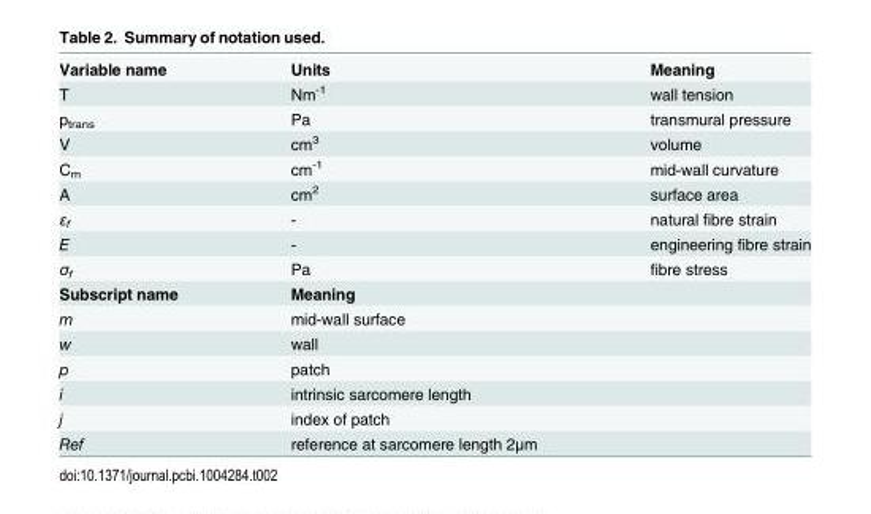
<table><tbody><tr><td>Variable name</td><td>Units</td><td>Meaning</td></tr><tr><td>T</td><td>Nm<sup>-1</sup></td><td>wall tension</td></tr><tr><td>p<sub>trans</sub></td><td>Pa</td><td>transmural pressure</td></tr><tr><td>V</td><td>cm<sup>3</sup></td><td>volume</td></tr><tr><td>C<sub>m</sub></td><td>cm<sup>-1</sup></td><td>mid-wall curvature</td></tr><tr><td>A</td><td>cm<sup>2</sup></td><td>surface area</td></tr><tr><td>ε<sub>f</sub></td><td>-</td><td>natural fibre strain</td></tr><tr><td>E</td><td>-</td><td>engineering fibre strain</td></tr><tr><td>σ<sub>f</sub></td><td>Pa</td><td>fibre stress</td></tr><tr><td>Subscript name</td><td>Meaning</td><td></td></tr><tr><td>m</td><td>mid-wall surface</td><td></td></tr><tr><td>w</td><td>wall</td><td></td></tr><tr><td>p</td><td>patch</td><td></td></tr><tr><td>i</td><td>intrinsic sarcomere length</td><td></td></tr><tr><td>j</td><td>index of patch</td><td></td></tr><tr><td>Ref</td><td>reference at sarcomere length 2μm</td><td></td></tr></tbody></table>